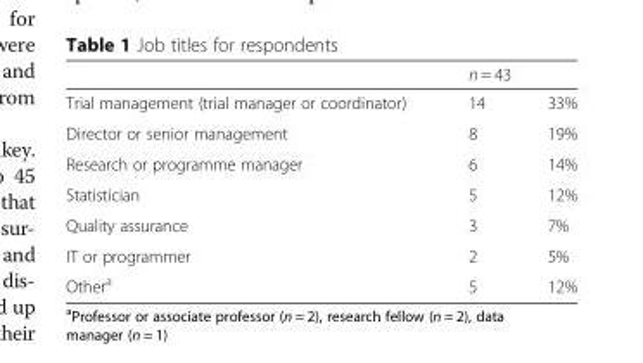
<table><thead><tr><td rowspan="2">Trial management (trial manager or coordinator)</td><td colspan="2">n = 43</td></tr><tr><td>14</td><td>33%</td></tr></thead><tbody><tr><td>Director or senior management</td><td>8</td><td>19%</td></tr><tr><td>Research or programme manager</td><td>6</td><td>14%</td></tr><tr><td>Statistician</td><td>5</td><td>12%</td></tr><tr><td>Quality assurance</td><td>3</td><td>7%</td></tr><tr><td>IT or programmer</td><td>2</td><td>5%</td></tr><tr><td>Other<sup>a</sup></td><td>5</td><td>12%</td></tr></tbody></table>